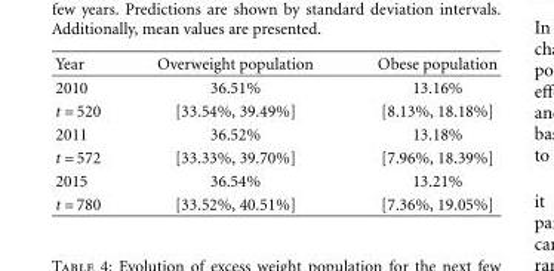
<table><thead><tr><td>Year</td><td>Overweight population</td><td>Obese population</td></tr></thead><tbody><tr><td>2010</td><td>36.51%</td><td>13.16%</td></tr><tr><td>t = 520</td><td>[33.54%, 39.49%]</td><td>[8.13%, 18.18%]</td></tr><tr><td>2011</td><td>36.52%</td><td>13.18%</td></tr><tr><td>t = 572</td><td>[33.33%, 39.70%]</td><td>[7.96%, 18.39%]</td></tr><tr><td>2015</td><td>36.54%</td><td>13.21%</td></tr><tr><td>t = 780</td><td>[33.52%, 40.51%]</td><td>[7.36%, 19.05%]</td></tr></tbody></table>